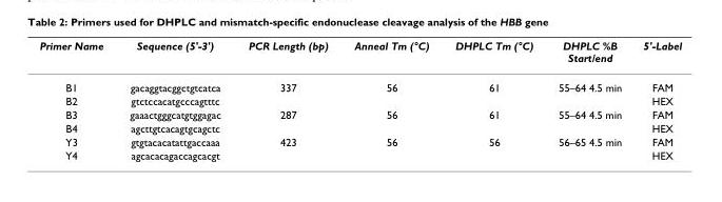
<table><thead><tr><td>Primer Name</td><td>Sequence (5&#x27;-3&#x27;)</td><td>PCR Length (bp)</td><td>Anneal Tm (°C)</td><td>DHPLC Tm (°C)</td><td>DHPLC %B Start/end</td><td>5&#x27;-Label</td></tr></thead><tbody><tr><td>B1</td><td>gacaggtacggctgtcatca</td><td>337</td><td>56</td><td>61</td><td>55–64 4.5 min</td><td>FAM</td></tr><tr><td>B2</td><td>gtctccacatgcccagtttc</td><td></td><td></td><td></td><td></td><td>HEX</td></tr><tr><td>B3</td><td>gaaactgggcatgtggagac</td><td>287</td><td>56</td><td>61</td><td>55–64 4.5 min</td><td>FAM</td></tr><tr><td>B4</td><td>agcttgtcacagtgcagctc</td><td></td><td></td><td></td><td></td><td>HEX</td></tr><tr><td>Y3</td><td>gtgtacacatattgaccaaa</td><td>423</td><td>56</td><td>56</td><td>56–65 4.5 min</td><td>FAM</td></tr><tr><td>Y4</td><td>agcacacagaccagcacgt</td><td></td><td></td><td></td><td></td><td>HEX</td></tr></tbody></table>